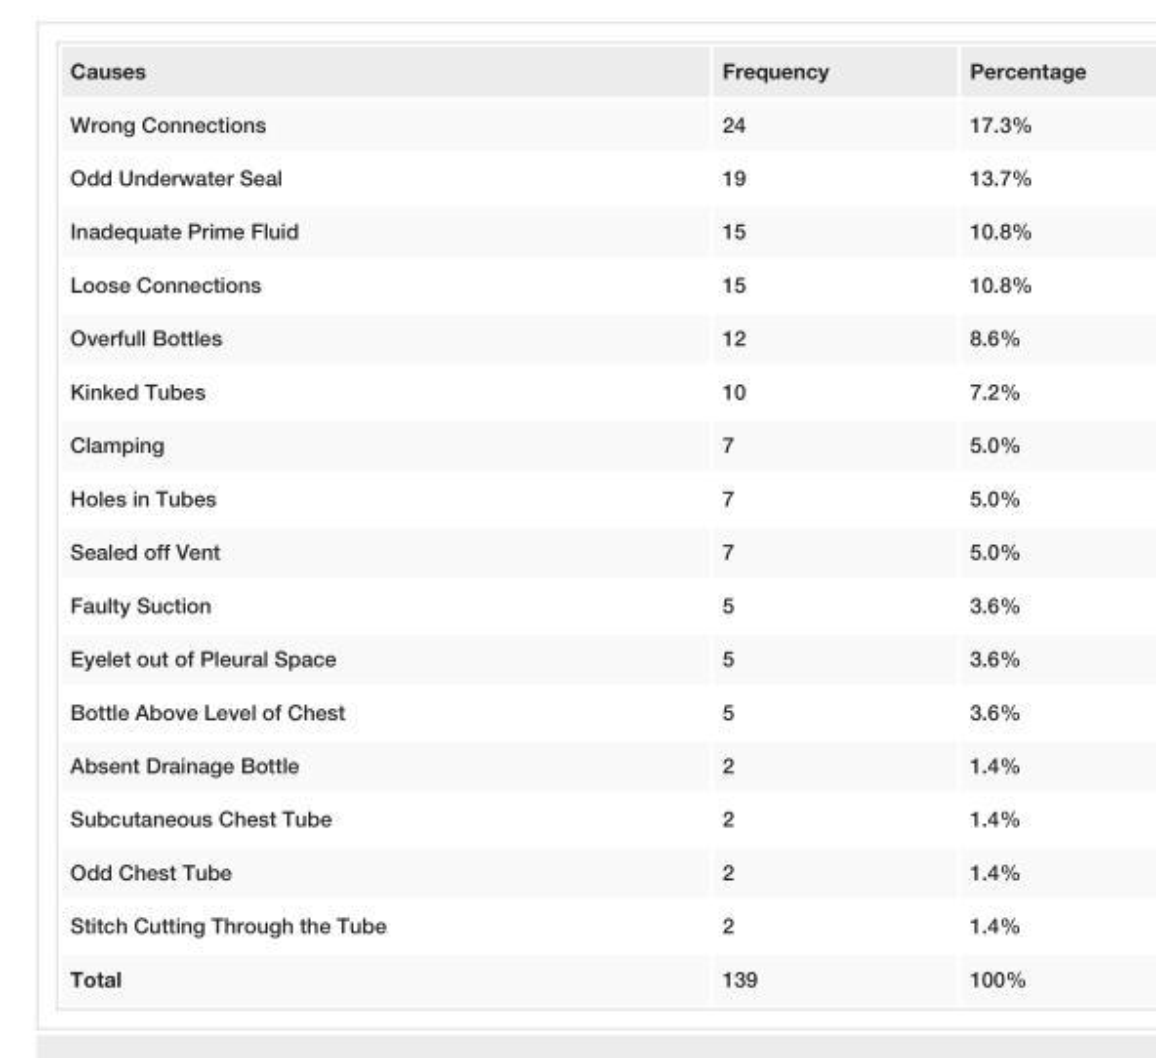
<table><tbody><tr><td>Causes</td><td>Frequency</td><td>Percentage</td></tr><tr><td>Wrong Connections</td><td>24</td><td>17.3%</td></tr><tr><td>Odd Underwater Seal</td><td>19</td><td>13.7%</td></tr><tr><td>Inadequate Prime Fluid</td><td>15</td><td>10.8%</td></tr><tr><td>Loose Connections</td><td>15</td><td>10.8%</td></tr><tr><td>Overfull Bottles</td><td>12</td><td>8.6%</td></tr><tr><td>Kinked Tubes</td><td>10</td><td>7.2%</td></tr><tr><td>Clamping</td><td>7</td><td>5.0%</td></tr><tr><td>Holes in Tubes</td><td>7</td><td>5.0%</td></tr><tr><td>Sealed off Vent</td><td>7</td><td>5.0%</td></tr><tr><td>Faulty Suction</td><td>5</td><td>3.6%</td></tr><tr><td>Eyelet out of Pleural Space</td><td>5</td><td>3.6%</td></tr><tr><td>Bottle Above Level of Chest</td><td>5</td><td>3.6%</td></tr><tr><td>Absent Drainage Bottle</td><td>2</td><td>1.4%</td></tr><tr><td>Subcutaneous Chest Tube</td><td>2</td><td>1.4%</td></tr><tr><td>Odd Chest Tube</td><td>2</td><td>1.4%</td></tr><tr><td>Stitch Cutting Through the Tube</td><td>2</td><td>1.4%</td></tr><tr><td>Total</td><td>139</td><td>100%</td></tr></tbody></table>